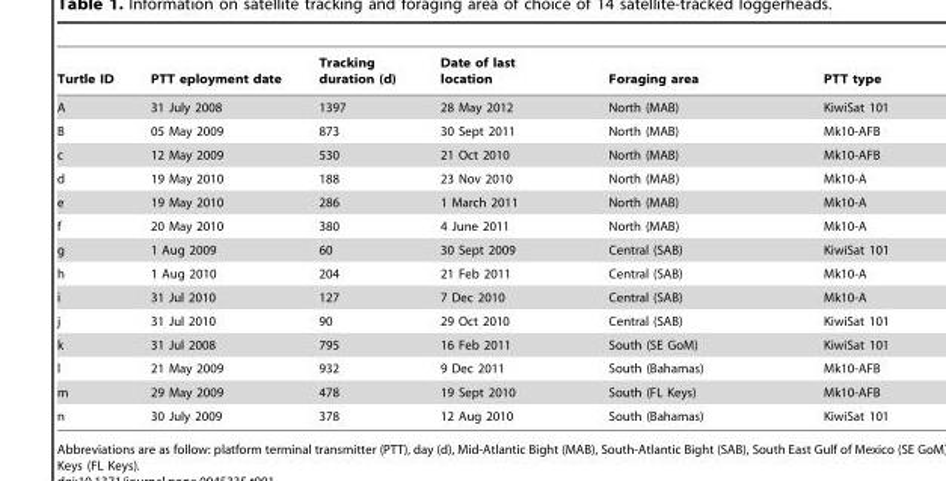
<table><thead><tr><td>Turtle ID</td><td>PTT eployment date</td><td>Tracking duration (d)</td><td>Date of last location</td><td>Foraging area</td><td>PTT type</td></tr></thead><tbody><tr><td>A</td><td>31 July 2008</td><td>1397</td><td>28 May 2012</td><td>North (MAB)</td><td>KiwiSat 101</td></tr><tr><td>B</td><td>05 May 2009</td><td>873</td><td>30 Sept 2011</td><td>North (MAB)</td><td>Mk10-AFB</td></tr><tr><td>c</td><td>12 May 2009</td><td>530</td><td>21 Oct 2010</td><td>North (MAB)</td><td>Mk10-AFB</td></tr><tr><td>d</td><td>19 May 2010</td><td>188</td><td>23 Nov 2010</td><td>North (MAB)</td><td>Mk10-A</td></tr><tr><td>e</td><td>19 May 2010</td><td>286</td><td>1 March 2011</td><td>North (MAB)</td><td>Mk10-A</td></tr><tr><td>f</td><td>20 May 2010</td><td>380</td><td>4 June 2011</td><td>North (MAB)</td><td>Mk10-A</td></tr><tr><td>g</td><td>1 Aug 2009</td><td>60</td><td>30 Sept 2009</td><td>Central (SAB)</td><td>KiwiSat 101</td></tr><tr><td>h</td><td>1 Aug 2010</td><td>204</td><td>21 Feb 2011</td><td>Central (SAB)</td><td>Mk10-A</td></tr><tr><td>i</td><td>31 Jul 2010</td><td>127</td><td>7 Dec 2010</td><td>Central (SAB)</td><td>Mk10-A</td></tr><tr><td>j</td><td>31 Jul 2010</td><td>90</td><td>29 Oct 2010</td><td>Central (SAB)</td><td>KiwiSat 101</td></tr><tr><td>k</td><td>31 Jul 2008</td><td>795</td><td>16 Feb 2011</td><td>South (SE GoM)</td><td>KiwiSat 101</td></tr><tr><td>l</td><td>21 May 2009</td><td>932</td><td>9 Dec 2011</td><td>South (Bahamas)</td><td>Mk10-AFB</td></tr><tr><td>m</td><td>29 May 2009</td><td>478</td><td>19 Sept 2010</td><td>South (FL Keys)</td><td>Mk10-AFB</td></tr><tr><td>n</td><td>30 July 2009</td><td>378</td><td>12 Aug 2010</td><td>South (Bahamas)</td><td>KiwiSat 101</td></tr></tbody></table>